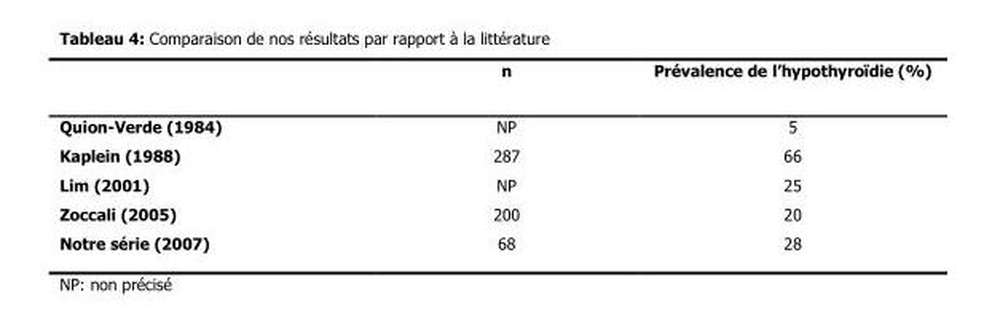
<table><thead><tr><td></td><td>n</td><td>Prévalence de l’hypothyroïdie (%)</td></tr></thead><tbody><tr><td>Quion-Verde (1984)</td><td>NP</td><td>5</td></tr><tr><td>Kaplein (1988)</td><td>287</td><td>66</td></tr><tr><td>Lim (2001)</td><td>NP</td><td>25</td></tr><tr><td>Zoccali (2005)</td><td>200</td><td>20</td></tr><tr><td>Notre série (2007)</td><td>68</td><td>28</td></tr></tbody></table>